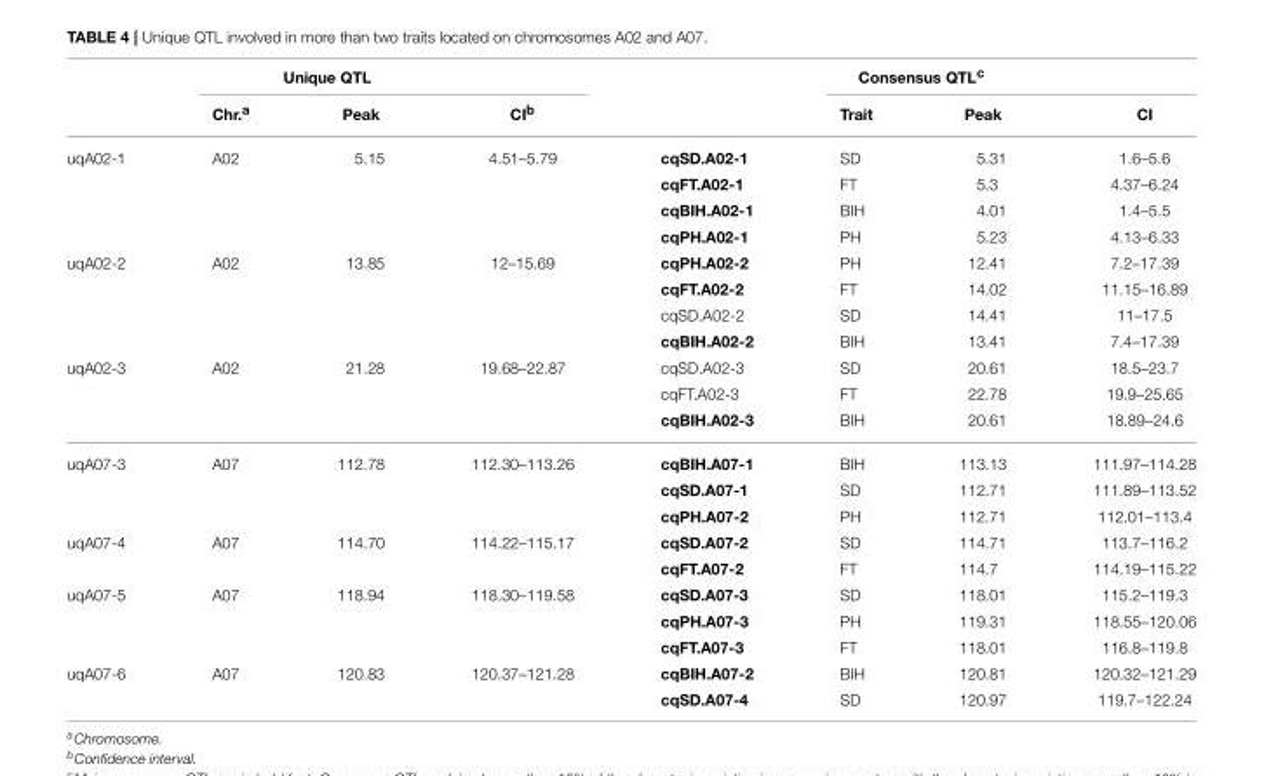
<table><thead><tr><td colspan="4">Unique QTL</td><td colspan="4">Consensus QTL<sup>c</sup></td></tr><tr><td></td><td>Chr.<sup>a</sup></td><td>Peak</td><td>CI<sup>b</sup></td><td></td><td>Trait</td><td>Peak</td><td>CI</td></tr></thead><tbody><tr><td rowspan="4">uqA02-1</td><td>A02</td><td>5.15</td><td>4.51–5.79</td><td>cqSD.A02-1</td><td>SD</td><td>5.31</td><td>1.6–5.6</td></tr><tr><td></td><td></td><td></td><td>cqFT.A02-1</td><td>FT</td><td>5.3</td><td>4.37–6.24</td></tr><tr><td></td><td></td><td></td><td>cqBIH.A02-1</td><td>BIH</td><td>4.01</td><td>1.4–5.5</td></tr><tr><td></td><td></td><td></td><td>cqPH.A02-1</td><td>PH</td><td>5.23</td><td>4.13–6.33</td></tr><tr><td rowspan="4">uqA02-2</td><td>A02</td><td>13.85</td><td>12–15.69</td><td>cqPH.A02-2</td><td>PH</td><td>12.41</td><td>7.2–17.39</td></tr><tr><td></td><td></td><td></td><td>cqFT.A02-2</td><td>FT</td><td>14.02</td><td>11.15–16.89</td></tr><tr><td></td><td></td><td></td><td>cqSD.A02-2</td><td>SD</td><td>14.41</td><td>11–17.5</td></tr><tr><td></td><td></td><td></td><td>cqBIH.A02-2</td><td>BIH</td><td>13.41</td><td>7.4–17.39</td></tr><tr><td rowspan="3">uqA02-3</td><td>A02</td><td>21.28</td><td>19.68–22.87</td><td>cqSD.A02-3</td><td>SD</td><td>20.61</td><td>18.5–23.7</td></tr><tr><td></td><td></td><td></td><td>cqFT.A02-3</td><td>FT</td><td>22.78</td><td>19.9–25.65</td></tr><tr><td></td><td></td><td></td><td>cqBIH.A02-3</td><td>BIH</td><td>20.61</td><td>18.89–24.6</td></tr><tr><td rowspan="3">uqA07-3</td><td>A07</td><td>112.78</td><td>112.30–113.26</td><td>cqBIH.A07-1</td><td>BIH</td><td>113.13</td><td>111.97–114.28</td></tr><tr><td></td><td></td><td></td><td>cqSD.A07-1</td><td>SD</td><td>112.71</td><td>111.89–113.52</td></tr><tr><td></td><td></td><td></td><td>cqPH.A07-2</td><td>PH</td><td>112.71</td><td>112.01–113.4</td></tr><tr><td rowspan="2">uqA07-4</td><td>A07</td><td>114.70</td><td>114.22–115.17</td><td>cqSD.A07-2</td><td>SD</td><td>114.71</td><td>113.7–116.2</td></tr><tr><td></td><td></td><td></td><td>cqFT.A07-2</td><td>FT</td><td>114.7</td><td>114.19–115.22</td></tr><tr><td rowspan="3">uqA07-5</td><td>A07</td><td>118.94</td><td>118.30–119.58</td><td>cqSD.A07-3</td><td>SD</td><td>118.01</td><td>115.2–119.3</td></tr><tr><td></td><td></td><td></td><td>cqPH.A07-3</td><td>PH</td><td>119.31</td><td>118.55–120.06</td></tr><tr><td></td><td></td><td></td><td>cqFT.A07-3</td><td>FT</td><td>118.01</td><td>116.8–119.8</td></tr><tr><td rowspan="2">uqA07-6</td><td>A07</td><td>120.83</td><td>120.37–121.28</td><td>cqBIH.A07-2</td><td>BIH</td><td>120.81</td><td>120.32–121.29</td></tr><tr><td></td><td></td><td></td><td>cqSD.A07-4</td><td>SD</td><td>120.97</td><td>119.7–122.24</td></tr></tbody></table>